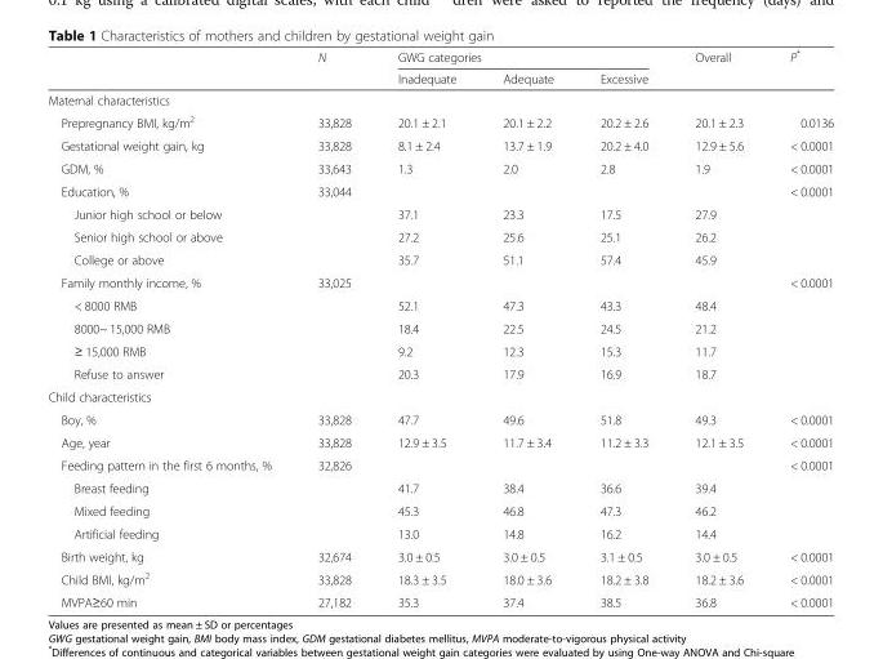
<table><thead><tr><td rowspan="2"></td><td rowspan="2">N</td><td colspan="3">GWG categories</td><td rowspan="2">Overall</td><td rowspan="2">P*</td></tr><tr><td>Inadequate</td><td>Adequate</td><td>Excessive</td></tr></thead><tbody><tr><td colspan="7">Maternal characteristics</td></tr><tr><td>Prepregnancy BMI, kg/m<sup>2</sup></td><td>33,828</td><td>20.1 ± 2.1</td><td>20.1 ± 2.2</td><td>20.2 ± 2.6</td><td>20.1 ± 2.3</td><td>0.0136</td></tr><tr><td>Gestational weight gain, kg</td><td>33,828</td><td>8.1 ± 2.4</td><td>13.7 ± 1.9</td><td>20.2 ± 4.0</td><td>12.9 ± 5.6</td><td>&lt; 0.0001</td></tr><tr><td>GDM, %</td><td>33,643</td><td>1.3</td><td>2.0</td><td>2.8</td><td>1.9</td><td>&lt; 0.0001</td></tr><tr><td>Education, %</td><td>33,044</td><td></td><td></td><td></td><td></td><td>&lt; 0.0001</td></tr><tr><td>Junior high school or below</td><td></td><td>37.1</td><td>23.3</td><td>17.5</td><td>27.9</td><td></td></tr><tr><td>Senior high school or above</td><td></td><td>27.2</td><td>25.6</td><td>25.1</td><td>26.2</td><td></td></tr><tr><td>College or above</td><td></td><td>35.7</td><td>51.1</td><td>57.4</td><td>45.9</td><td></td></tr><tr><td>Family monthly income, %</td><td>33,025</td><td></td><td></td><td></td><td></td><td>&lt; 0.0001</td></tr><tr><td>&lt; 8000 RMB</td><td></td><td>52.1</td><td>47.3</td><td>43.3</td><td>48.4</td><td></td></tr><tr><td>8000~ 15,000 RMB</td><td></td><td>18.4</td><td>22.5</td><td>24.5</td><td>21.2</td><td></td></tr><tr><td>≥ 15,000 RMB</td><td></td><td>9.2</td><td>12.3</td><td>15.3</td><td>11.7</td><td></td></tr><tr><td>Refuse to answer</td><td></td><td>20.3</td><td>17.9</td><td>16.9</td><td>18.7</td><td></td></tr><tr><td colspan="7">Child characteristics</td></tr><tr><td>Boy, %</td><td>33,828</td><td>47.7</td><td>49.6</td><td>51.8</td><td>49.3</td><td>&lt; 0.0001</td></tr><tr><td>Age, year</td><td>33,828</td><td>12.9 ± 3.5</td><td>11.7 ± 3.4</td><td>11.2 ± 3.3</td><td>12.1 ± 3.5</td><td>&lt; 0.0001</td></tr><tr><td>Feeding pattern in the first 6 months, %</td><td>32,826</td><td></td><td></td><td></td><td></td><td>&lt; 0.0001</td></tr><tr><td>Breast feeding</td><td></td><td>41.7</td><td>38.4</td><td>36.6</td><td>39.4</td><td></td></tr><tr><td>Mixed feeding</td><td></td><td>45.3</td><td>46.8</td><td>47.3</td><td>46.2</td><td></td></tr><tr><td>Artificial feeding</td><td></td><td>13.0</td><td>14.8</td><td>16.2</td><td>14.4</td><td></td></tr><tr><td>Birth weight, kg</td><td>32,674</td><td>3.0 ± 0.5</td><td>3.0 ± 0.5</td><td>3.1 ± 0.5</td><td>3.0 ± 0.5</td><td>&lt; 0.0001</td></tr><tr><td>Child BMI, kg/m<sup>2</sup></td><td>33,828</td><td>18.3 ± 3.5</td><td>18.0 ± 3.6</td><td>18.2 ± 3.8</td><td>18.2 ± 3.6</td><td>&lt; 0.0001</td></tr><tr><td>MVPA≥60 min</td><td>27,182</td><td>35.3</td><td>37.4</td><td>38.5</td><td>36.8</td><td>&lt; 0.0001</td></tr></tbody></table>